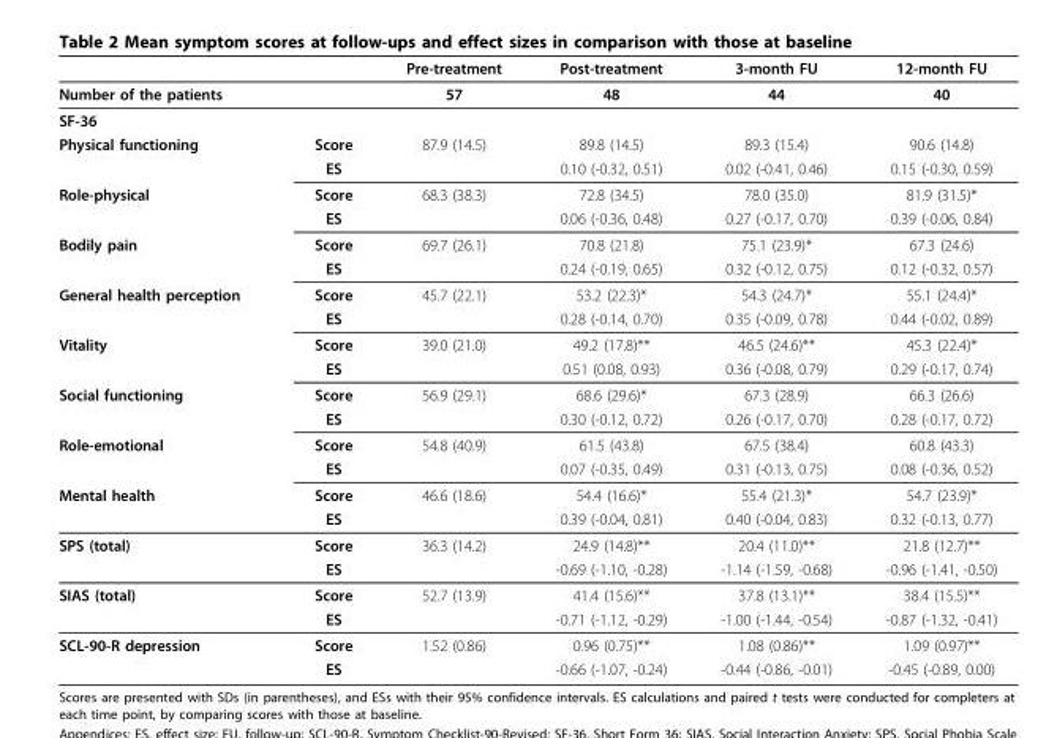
<table><thead><tr><td></td><td></td><td>Pre-treatment</td><td>Post-treatment</td><td>3-month FU</td><td>12-month FU</td></tr></thead><tbody><tr><td colspan="2">Number of the patients</td><td>57</td><td>48</td><td>44</td><td>40</td></tr><tr><td colspan="6">SF-36</td></tr><tr><td rowspan="2">Physical functioning</td><td>Score</td><td>87.9 (14.5)</td><td>89.8 (14.5)</td><td>89.3 (15.4)</td><td>90.6 (14.8)</td></tr><tr><td>ES</td><td></td><td>0.10 (-0.32, 0.51)</td><td>0.02 (-0.41, 0.46)</td><td>0.15 (-0.30, 0.59)</td></tr><tr><td rowspan="2">Role-physical</td><td>Score</td><td>68.3 (38.3)</td><td>72.8 (34.5)</td><td>78.0 (35.0)</td><td>81.9 (31.5)*</td></tr><tr><td>ES</td><td></td><td>0.06 (-0.36, 0.48)</td><td>0.27 (-0.17, 0.70)</td><td>0.39 (-0.06, 0.84)</td></tr><tr><td rowspan="2">Bodily pain</td><td>Score</td><td>69.7 (26.1)</td><td>70.8 (21.8)</td><td>75.1 (23.9)*</td><td>67.3 (24.6)</td></tr><tr><td>ES</td><td></td><td>0.24 (-0.19, 0.65)</td><td>0.32 (-0.12, 0.75)</td><td>0.12 (-0.32, 0.57)</td></tr><tr><td rowspan="2">General health perception</td><td>Score</td><td>45.7 (22.1)</td><td>53.2 (22.3)*</td><td>54.3 (24.7)*</td><td>55.1 (24.4)*</td></tr><tr><td>ES</td><td></td><td>0.28 (-0.14, 0.70)</td><td>0.35 (-0.09, 0.78)</td><td>0.44 (-0.02, 0.89)</td></tr><tr><td rowspan="2">Vitality</td><td>Score</td><td>39.0 (21.0)</td><td>49.2 (17.8)**</td><td>46.5 (24.6)**</td><td>45.3 (22.4)*</td></tr><tr><td>ES</td><td></td><td>0.51 (0.08, 0.93)</td><td>0.36 (-0.08, 0.79)</td><td>0.29 (-0.17, 0.74)</td></tr><tr><td rowspan="2">Social functioning</td><td>Score</td><td>56.9 (29.1)</td><td>68.6 (29.6)*</td><td>67.3 (28.9)</td><td>66.3 (26.6)</td></tr><tr><td>ES</td><td></td><td>0.30 (-0.12, 0.72)</td><td>0.26 (-0.17, 0.70)</td><td>0.28 (-0.17, 0.72)</td></tr><tr><td rowspan="2">Role-emotional</td><td>Score</td><td>54.8 (40.9)</td><td>61.5 (43.8)</td><td>67.5 (38.4)</td><td>60.8 (43.3)</td></tr><tr><td>ES</td><td></td><td>0.07 (-0.35, 0.49)</td><td>0.31 (-0.13, 0.75)</td><td>0.08 (-0.36, 0.52)</td></tr><tr><td rowspan="2">Mental health</td><td>Score</td><td>46.6 (18.6)</td><td>54.4 (16.6)*</td><td>55.4 (21.3)*</td><td>54.7 (23.9)*</td></tr><tr><td>ES</td><td></td><td>0.39 (-0.04, 0.81)</td><td>0.40 (-0.04, 0.83)</td><td>0.32 (-0.13, 0.77)</td></tr><tr><td rowspan="2">SPS (total)</td><td>Score</td><td>36.3 (14.2)</td><td>24.9 (14.8)**</td><td>20.4 (11.0)**</td><td>21.8 (12.7)**</td></tr><tr><td>ES</td><td></td><td>-0.69 (-1.10, -0.28)</td><td>-1.14 (-1.59, -0.68)</td><td>-0.96 (-1.41, -0.50)</td></tr><tr><td rowspan="2">SIAS (total)</td><td>Score</td><td>52.7 (13.9)</td><td>41.4 (15.6)**</td><td>37.8 (13.1)**</td><td>38.4 (15.5)**</td></tr><tr><td>ES</td><td></td><td>-0.71 (-1.12, -0.29)</td><td>-1.00 (-1.44, -0.54)</td><td>-0.87 (-1.32, -0.41)</td></tr><tr><td rowspan="2">SCL-90-R depression</td><td>Score</td><td>1.52 (0.86)</td><td>0.96 (0.75)**</td><td>1.08 (0.86)**</td><td>1.09 (0.97)**</td></tr><tr><td>ES</td><td></td><td>-0.66 (-1.07, -0.24)</td><td>-0.44 (-0.86, -0.01)</td><td>-0.45 (-0.89, 0.00)</td></tr></tbody></table>